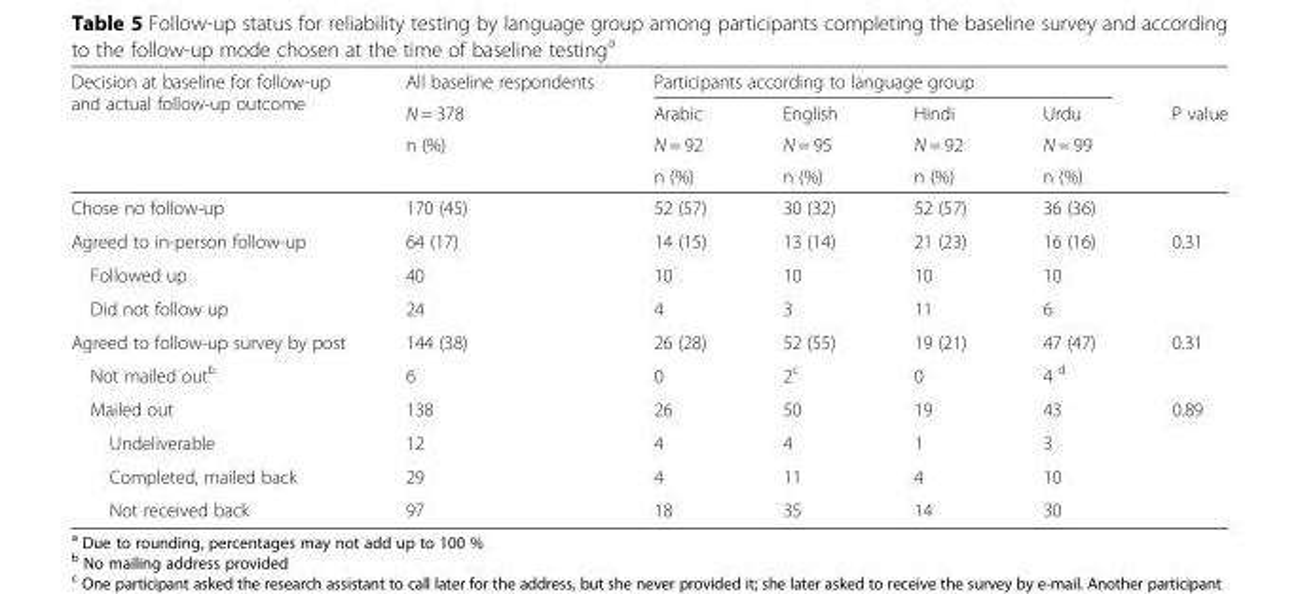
<table><thead><tr><td rowspan="4">Decision at baseline for follow-up and actual follow-up outcome</td><td rowspan="4">All baseline respondents N = 378 n (%)</td><td colspan="4">Participants according to language group</td><td rowspan="4">P value</td></tr><tr><td rowspan="3">Arabic N = 92 n (%)</td><td rowspan="3">English N = 95 n (%)</td><td rowspan="3">Hindi N = 92 n (%)</td><td rowspan="3">Urdu N = 99 n (%)</td></tr><tr></tr><tr></tr></thead><tbody><tr><td>Chose no follow-up</td><td>170 (45)</td><td>52 (57)</td><td>30 (32)</td><td>52 (57)</td><td>36 (36)</td><td></td></tr><tr><td>Agreed to in-person follow-up</td><td>64 (17)</td><td>14 (15)</td><td>13 (14)</td><td>21 (23)</td><td>16 (16)</td><td>0.31</td></tr><tr><td>Followed up</td><td>40</td><td>10</td><td>10</td><td>10</td><td>10</td><td></td></tr><tr><td>Did not follow up</td><td>24</td><td>4</td><td>3</td><td>11</td><td>6</td><td></td></tr><tr><td>Agreed to follow-up survey by post</td><td>144 (38)</td><td>26 (28)</td><td>52 (55)</td><td>19 (21)</td><td>47 (47)</td><td>0.31</td></tr><tr><td>Not mailed out<sup>b</sup></td><td>6</td><td>0</td><td>2<sup>c</sup></td><td>0</td><td>4 <sup>d</sup></td><td></td></tr><tr><td>Mailed out</td><td>138</td><td>26</td><td>50</td><td>19</td><td>43</td><td>0.89</td></tr><tr><td>Undeliverable</td><td>12</td><td>4</td><td>4</td><td>1</td><td>3</td><td></td></tr><tr><td>Completed, mailed back</td><td>29</td><td>4</td><td>11</td><td>4</td><td>10</td><td></td></tr><tr><td>Not received back</td><td>97</td><td>18</td><td>35</td><td>14</td><td>30</td><td></td></tr></tbody></table>